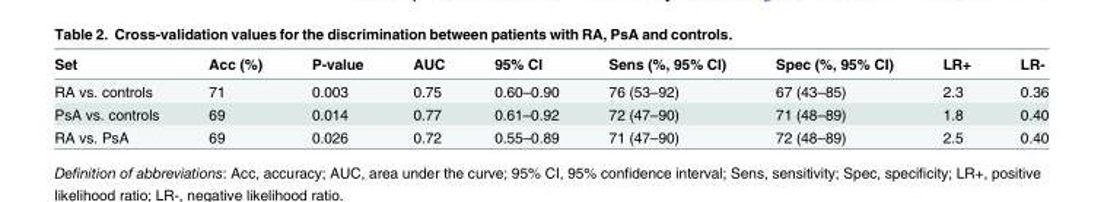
<table><thead><tr><td>Set</td><td>Acc (%)</td><td>P-value</td><td>AUC</td><td>95% CI</td><td>Sens (%, 95% CI)</td><td>Spec (%, 95% CI)</td><td>LR+</td><td>LR-</td></tr></thead><tbody><tr><td>RA vs. controls</td><td>71</td><td>0.003</td><td>0.75</td><td>0.60–0.90</td><td>76 (53–92)</td><td>67 (43–85)</td><td>2.3</td><td>0.36</td></tr><tr><td>PsA vs. controls</td><td>69</td><td>0.014</td><td>0.77</td><td>0.61–0.92</td><td>72 (47–90)</td><td>71 (48–89)</td><td>1.8</td><td>0.40</td></tr><tr><td>RA vs. PsA</td><td>69</td><td>0.026</td><td>0.72</td><td>0.55–0.89</td><td>71 (47–90)</td><td>72 (48–89)</td><td>2.5</td><td>0.40</td></tr></tbody></table>